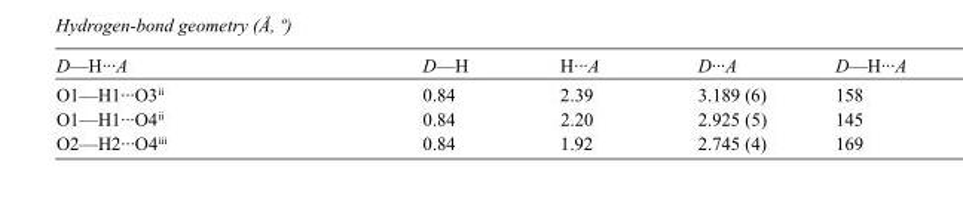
<table><tbody><tr><td>D—H···A</td><td>D—H</td><td>H···A</td><td>D···A</td><td>D—H···A</td></tr><tr><td>O1—H1···O3<sup>ii</sup></td><td>0.84</td><td>2.39</td><td>3.189 (6)</td><td>158</td></tr><tr><td>O1—H1···O4<sup>ii</sup></td><td>0.84</td><td>2.20</td><td>2.925 (5)</td><td>145</td></tr><tr><td>O2—H2···O4<sup>iii</sup></td><td>0.84</td><td>1.92</td><td>2.745 (4)</td><td>169</td></tr></tbody></table>